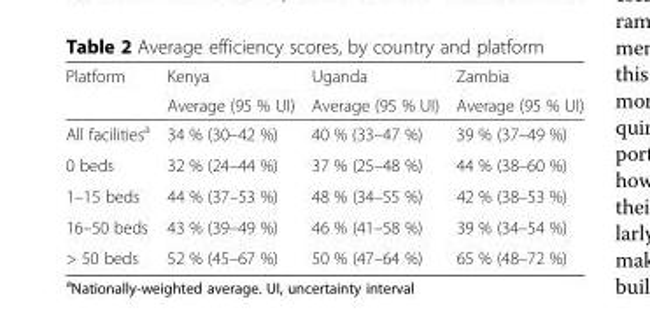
<table><thead><tr><td rowspan="2">Platform</td><td rowspan="2">Kenya Average (95 % UI)</td><td rowspan="2">Uganda Average (95 % UI)</td><td rowspan="2">Zambia Average (95 % UI)</td></tr><tr></tr></thead><tbody><tr><td>All facilities<sup>a</sup></td><td>34 % (30–42 %)</td><td>40 % (33–47 %)</td><td>39 % (37–49 %)</td></tr><tr><td>0 beds</td><td>32 % (24–44 %)</td><td>37 % (25–48 %)</td><td>44 % (38–60 %)</td></tr><tr><td>1–15 beds</td><td>44 % (37–53 %)</td><td>48 % (34–55 %)</td><td>42 % (38–53 %)</td></tr><tr><td>16–50 beds</td><td>43 % (39–49 %)</td><td>46 % (41–58 %)</td><td>39 % (34–54 %)</td></tr><tr><td>&gt; 50 beds</td><td>52 % (45–67 %)</td><td>50 % (47–64 %)</td><td>65 % (48–72 %)</td></tr></tbody></table>